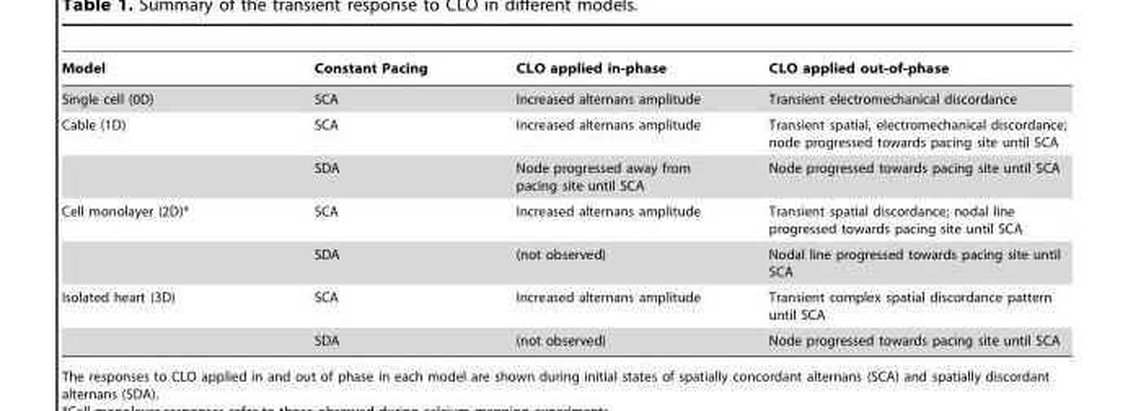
<table><thead><tr><td>Model</td><td>Constant Pacing</td><td>CLO applied in-phase</td><td>CLO applied out-of-phase</td></tr></thead><tbody><tr><td>Single cell (0D)</td><td>SCA</td><td>Increased alternans amplitude</td><td>Transient electromechanical discordance</td></tr><tr><td rowspan="2">Cable (1D)</td><td>SCA</td><td>Increased alternans amplitude</td><td>Transient spatial, electromechanical discordance; node progressed towards pacing site until SCA</td></tr><tr><td>SDA</td><td>Node progressed away from pacing site until SCA</td><td>Node progressed towards pacing site until SCA</td></tr><tr><td rowspan="2">Cell monolayer (2D)*</td><td>SCA</td><td>Increased alternans amplitude</td><td>Transient spatial discordance; nodal line progressed towards pacing site until SCA</td></tr><tr><td>SDA</td><td>(not observed)</td><td>Nodal line progressed towards pacing site until SCA</td></tr><tr><td rowspan="2">Isolated heart (3D)</td><td>SCA</td><td>Increased alternans amplitude</td><td>Transient complex spatial discordance pattern until SCA</td></tr><tr><td>SDA</td><td>(not observed)</td><td>Node progressed towards pacing site until SCA</td></tr></tbody></table>